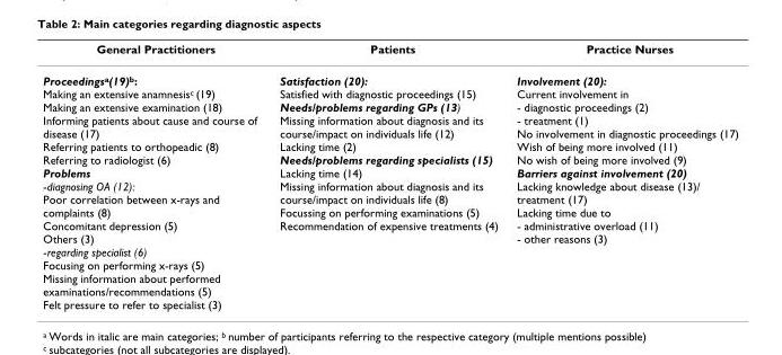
<table><thead><tr><td>General Practitioners</td><td>Patients</td><td>Practice Nurses</td></tr></thead><tbody><tr><td>Proceedingsa(19)b: Making an extensive anamnesisc (19) Making an extensive examination (18) Informing patients about cause and course of disease (17) Referring patients to orthopeadic (8) Referring to radiologist (6) Problems -diagnosing OA (12): Poor correlation between x-rays and complaints (8) Concomitant depression (5) Others (3) -regarding specialist (6) Focusing on performing x-rays (5) Missing information about performed examinations/recommendations (5) Felt pressure to refer to specialist (3)</td><td>Satisfaction (20): Satisfied with diagnostic proceedings (15) Needs/problems regarding GPs (13) Missing information about diagnosis and its course/impact on individuals life (12) Lacking time (2) Needs/problems regarding specialists (15) Lacking time (14) Missing information about diagnosis and its course/impact on individuals life (8) Focussing on performing examinations (5) Recommendation of expensive treatments (4)</td><td>Involvement (20): Current involvement in - diagnostic proceedings (2) - treatment (1) No involvement in diagnostic proceedings (17) Wish of being more involved (11) No wish of being more involved (9) Barriers against involvement (20) Lacking knowledge about disease (13)/ treatment (17) Lacking time due to - administrative overload (11) - other reasons (3)</td></tr></tbody></table>